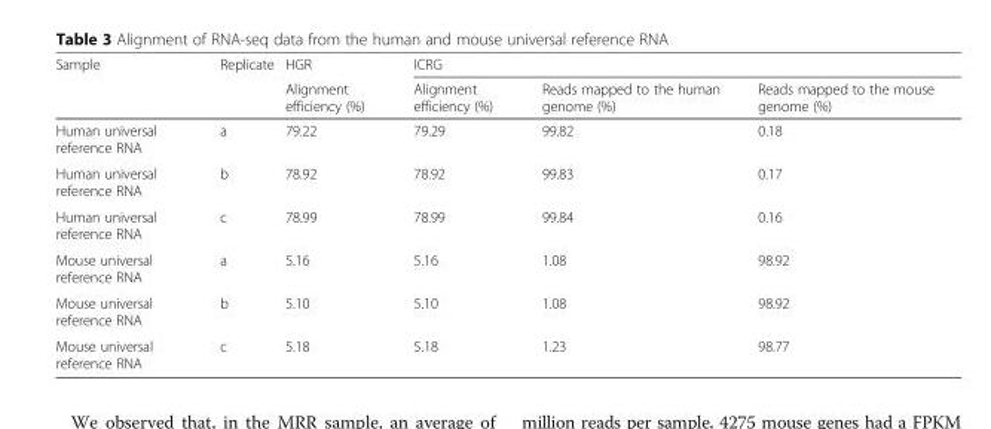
<table><thead><tr><td rowspan="2">Sample</td><td rowspan="2">Replicate</td><td rowspan="2">HGR Alignment efficiency (%)</td><td colspan="3">ICRG</td></tr><tr><td>Alignment efficiency (%)</td><td>Reads mapped to the human genome (%)</td><td>Reads mapped to the mouse genome (%)</td></tr></thead><tbody><tr><td>Human universal reference RNA</td><td>a</td><td>79.22</td><td>79.29</td><td>99.82</td><td>0.18</td></tr><tr><td>Human universal reference RNA</td><td>b</td><td>78.92</td><td>78.92</td><td>99.83</td><td>0.17</td></tr><tr><td>Human universal reference RNA</td><td>c</td><td>78.99</td><td>78.99</td><td>99.84</td><td>0.16</td></tr><tr><td>Mouse universal reference RNA</td><td>a</td><td>5.16</td><td>5.16</td><td>1.08</td><td>98.92</td></tr><tr><td>Mouse universal reference RNA</td><td>b</td><td>5.10</td><td>5.10</td><td>1.08</td><td>98.92</td></tr><tr><td>Mouse universal reference RNA</td><td>c</td><td>5.18</td><td>5.18</td><td>1.23</td><td>98.77</td></tr></tbody></table>